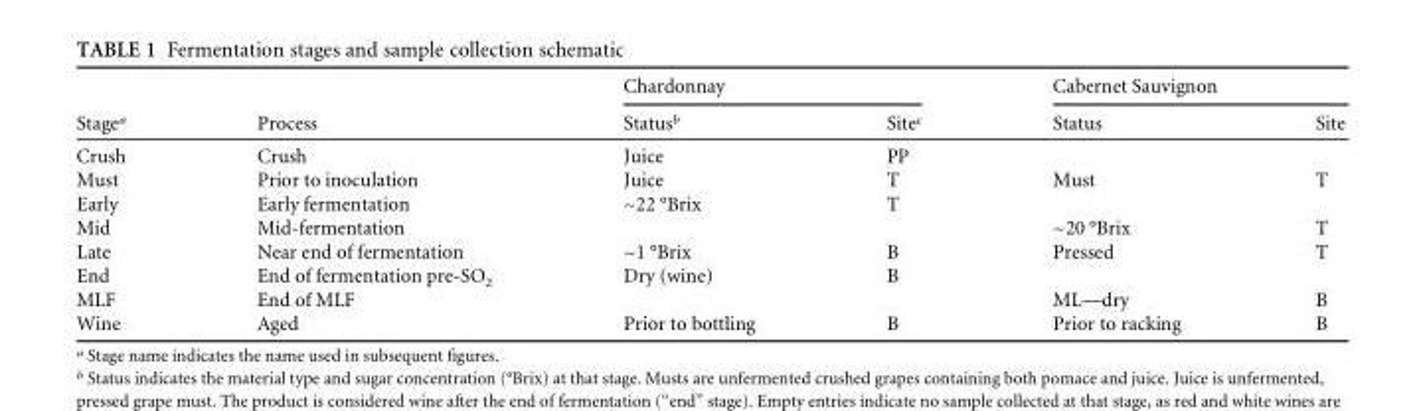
<table><thead><tr><td rowspan="2">Stage<sup>a</sup></td><td rowspan="2">Process</td><td colspan="2">Chardonnay</td><td colspan="2">Cabernet Sauvignon</td></tr><tr><td>Status<sup>b</sup></td><td>Site<sup>c</sup></td><td>Status</td><td>Site</td></tr></thead><tbody><tr><td>Crush</td><td>Crush</td><td>Juice</td><td>PP</td><td></td><td></td></tr><tr><td>Must</td><td>Prior to inoculation</td><td>Juice</td><td>T</td><td>Must</td><td>T</td></tr><tr><td>Early</td><td>Early fermentation</td><td>~22 °Brix</td><td>T</td><td></td><td></td></tr><tr><td>Mid</td><td>Mid-fermentation</td><td></td><td></td><td>~20 °Brix</td><td>T</td></tr><tr><td>Late</td><td>Near end of fermentation</td><td>~1 °Brix</td><td>B</td><td>Pressed</td><td>T</td></tr><tr><td>End</td><td>End of fermentation pre-SO<sub>2</sub></td><td>Dry (wine)</td><td>B</td><td></td><td></td></tr><tr><td>MLF</td><td>End of MLF</td><td></td><td></td><td>ML—dry</td><td>B</td></tr><tr><td>Wine</td><td>Aged</td><td>Prior to bottling</td><td>B</td><td>Prior to racking</td><td>B</td></tr></tbody></table>